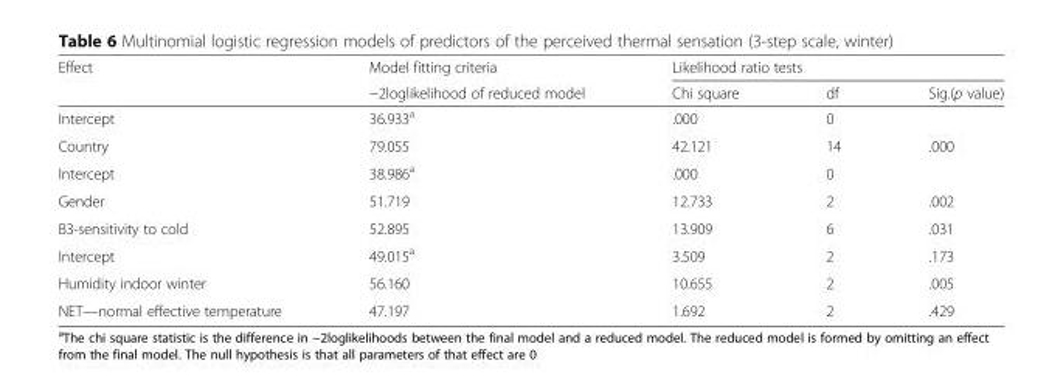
<table><thead><tr><td rowspan="2">Effect</td><td rowspan="2">Model fitting criteria −2loglikelihood of reduced model</td><td colspan="3">Likelihood ratio tests</td></tr><tr><td>Chi square</td><td>df</td><td>Sig.(p value)</td></tr></thead><tbody><tr><td>Intercept</td><td>36.933<sup>a</sup></td><td>.000</td><td>0</td><td></td></tr><tr><td>Country</td><td>79.055</td><td>42.121</td><td>14</td><td>.000</td></tr><tr><td>Intercept</td><td>38.986<sup>a</sup></td><td>.000</td><td>0</td><td></td></tr><tr><td>Gender</td><td>51.719</td><td>12.733</td><td>2</td><td>.002</td></tr><tr><td>B3-sensitivity to cold</td><td>52.895</td><td>13.909</td><td>6</td><td>.031</td></tr><tr><td>Intercept</td><td>49.015<sup>a</sup></td><td>3.509</td><td>2</td><td>.173</td></tr><tr><td>Humidity indoor winter</td><td>56.160</td><td>10.655</td><td>2</td><td>.005</td></tr><tr><td>NET—normal effective temperature</td><td>47.197</td><td>1.692</td><td>2</td><td>.429</td></tr></tbody></table>